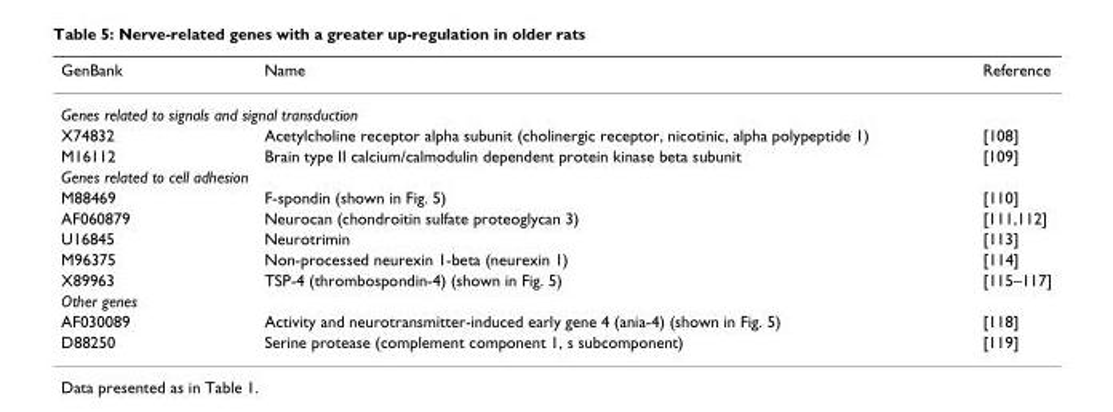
<table><thead><tr><td>GenBank</td><td>Name</td><td>Reference</td></tr></thead><tbody><tr><td colspan="3">Genes related to signals and signal transduction</td></tr><tr><td>X74832</td><td>Acetylcholine receptor alpha subunit (cholinergic receptor, nicotinic, alpha polypeptide 1)</td><td>[108]</td></tr><tr><td>M16112</td><td>Brain type II calcium/calmodulin dependent protein kinase beta subunit</td><td>[109]</td></tr><tr><td colspan="3">Genes related to cell adhesion</td></tr><tr><td>M88469</td><td>F-spondin (shown in Fig. 5)</td><td>[110]</td></tr><tr><td>AF060879</td><td>Neurocan (chondroitin sulfate proteoglycan 3)</td><td>[111,112]</td></tr><tr><td>U16845</td><td>Neurotrimin</td><td>[113]</td></tr><tr><td>M96375</td><td>Non-processed neurexin 1-beta (neurexin 1)</td><td>[114]</td></tr><tr><td>X89963</td><td>TSP-4 (thrombospondin-4) (shown in Fig. 5)</td><td>[115–117]</td></tr><tr><td colspan="3">Other genes</td></tr><tr><td>AF030089</td><td>Activity and neurotransmitter-induced early gene 4 (ania-4) (shown in Fig. 5)</td><td>[118]</td></tr><tr><td>D88250</td><td>Serine protease (complement component 1, s subcomponent)</td><td>[119]</td></tr></tbody></table>